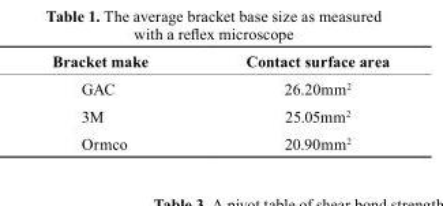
<table><thead><tr><td>bracket make</td><td>contact surface area</td></tr></thead><tbody><tr><td>GAC</td><td>26.20mm<sup>2</sup></td></tr><tr><td>3M</td><td>25.05mm<sup>2</sup></td></tr><tr><td>Ormco</td><td>20.90mm<sup>2</sup></td></tr></tbody></table>